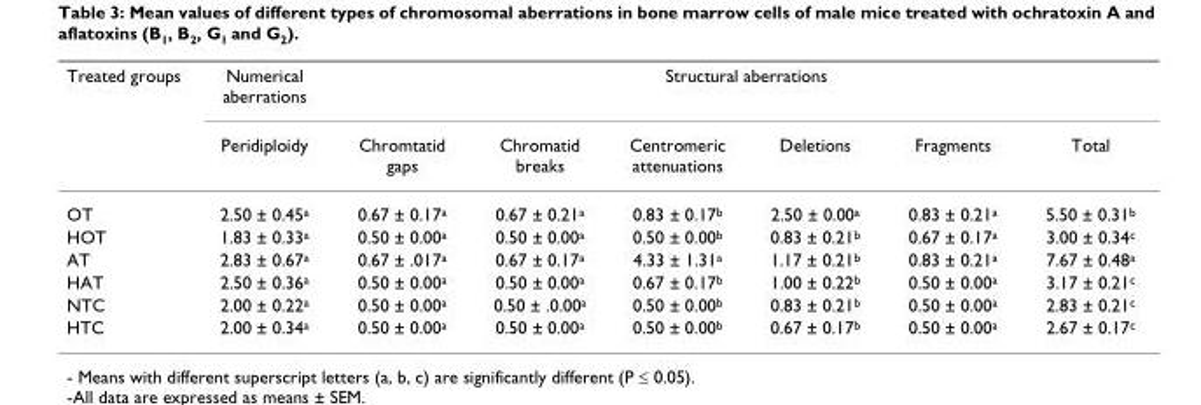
<table><thead><tr><td rowspan="2">Treated groups</td><td rowspan="2">Numerical aberrations Peridiploidy</td><td colspan="6">Structural aberrations</td></tr><tr><td>Chromtatid gaps</td><td>Chromatid breaks</td><td>Centromeric attenuations</td><td>Deletions</td><td>Fragments</td><td>Total</td></tr></thead><tbody><tr><td>OT</td><td>2.50 ± 0.45<sup>a</sup></td><td>0.67 ± 0.17<sup>a</sup></td><td>0.67 ± 0.21<sup>a</sup></td><td>0.83 ± 0.17<sup>b</sup></td><td>2.50 ± 0.00<sup>a</sup></td><td>0.83 ± 0.21<sup>a</sup></td><td>5.50 ± 0.31<sup>b</sup></td></tr><tr><td>HOT</td><td>1.83 ± 0.33<sup>a</sup></td><td>0.50 ± 0.00<sup>a</sup></td><td>0.50 ± 0.00<sup>a</sup></td><td>0.50 ± 0.00<sup>b</sup></td><td>0.83 ± 0.21<sup>b</sup></td><td>0.67 ± 0.17<sup>a</sup></td><td>3.00 ± 0.34<sup>c</sup></td></tr><tr><td>AT</td><td>2.83 ± 0.67<sup>a</sup></td><td>0.67 ± .017<sup>a</sup></td><td>0.67 ± 0.17<sup>a</sup></td><td>4.33 ± 1.31<sup>a</sup></td><td>1.17 ± 0.21<sup>b</sup></td><td>0.83 ± 0.21<sup>a</sup></td><td>7.67 ± 0.48<sup>a</sup></td></tr><tr><td>HAT</td><td>2.50 ± 0.36<sup>a</sup></td><td>0.50 ± 0.00<sup>a</sup></td><td>0.50 ± 0.00<sup>a</sup></td><td>0.67 ± 0.17<sup>b</sup></td><td>1.00 ± 0.22<sup>b</sup></td><td>0.50 ± 0.00<sup>a</sup></td><td>3.17 ± 0.21<sup>c</sup></td></tr><tr><td>NTC</td><td>2.00 ± 0.22<sup>a</sup></td><td>0.50 ± 0.00<sup>a</sup></td><td>0.50 ± .0.00<sup>a</sup></td><td>0.50 ± 0.00<sup>b</sup></td><td>0.83 ± 0.21<sup>b</sup></td><td>0.50 ± 0.00<sup>a</sup></td><td>2.83 ± 0.21<sup>c</sup></td></tr><tr><td>HTC</td><td>2.00 ± 0.34<sup>a</sup></td><td>0.50 ± 0.00<sup>a</sup></td><td>0.50 ± 0.00<sup>a</sup></td><td>0.50 ± 0.00<sup>b</sup></td><td>0.67 ± 0.17<sup>b</sup></td><td>0.50 ± 0.00<sup>a</sup></td><td>2.67 ± 0.17<sup>c</sup></td></tr></tbody></table>